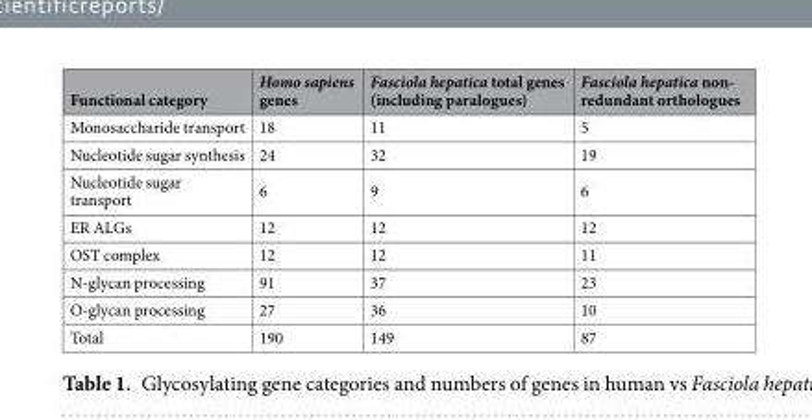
<table><thead><tr><td>Functional category</td><td>Homo sapiens genes</td><td>Fasciola hepatica total genes (including paralogues)</td><td>Fasciola hepatica non- redundant orthologues</td></tr></thead><tbody><tr><td>Monosaccharide transport</td><td>18</td><td>11</td><td>5</td></tr><tr><td>Nucleotide sugar synthesis</td><td>24</td><td>32</td><td>19</td></tr><tr><td>Nucleotide sugar transport</td><td>6</td><td>9</td><td>6</td></tr><tr><td>ER ALGs</td><td>12</td><td>12</td><td>12</td></tr><tr><td>OST complex</td><td>12</td><td>12</td><td>11</td></tr><tr><td>N-glycan processing</td><td>91</td><td>37</td><td>23</td></tr><tr><td>O-glycan processing</td><td>27</td><td>36</td><td>10</td></tr><tr><td>Total</td><td>190</td><td>149</td><td>87</td></tr></tbody></table>